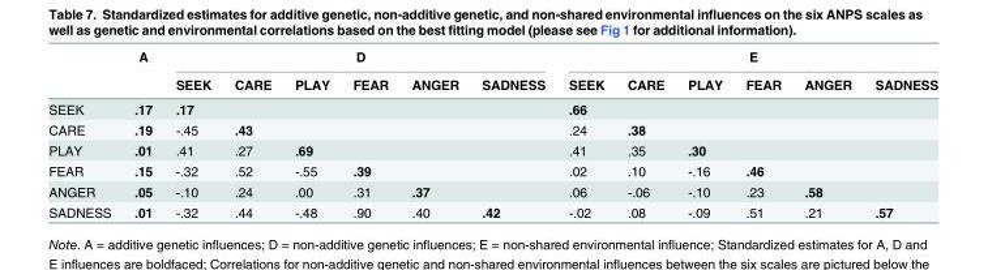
<table><thead><tr><td rowspan="2"></td><td rowspan="2">A</td><td colspan="6">D</td><td colspan="6">E</td></tr><tr><td>SEEK</td><td>CARE</td><td>PLAY</td><td>FEAR</td><td>ANGER</td><td>SADNESS</td><td>SEEK</td><td>CARE</td><td>PLAY</td><td>FEAR</td><td>ANGER</td><td>SADNESS</td></tr></thead><tbody><tr><td>SEEK</td><td>.17</td><td>.17</td><td></td><td></td><td></td><td></td><td></td><td>.66</td><td></td><td></td><td></td><td></td><td></td></tr><tr><td>CARE</td><td>.19</td><td>-.45</td><td>.43</td><td></td><td></td><td></td><td></td><td>.24</td><td>.38</td><td></td><td></td><td></td><td></td></tr><tr><td>PLAY</td><td>.01</td><td>.41</td><td>.27</td><td>.69</td><td></td><td></td><td></td><td>.41</td><td>.35</td><td>.30</td><td></td><td></td><td></td></tr><tr><td>FEAR</td><td>.15</td><td>-.32</td><td>.52</td><td>-.55</td><td>.39</td><td></td><td></td><td>.02</td><td>.10</td><td>-.16</td><td>.46</td><td></td><td></td></tr><tr><td>ANGER</td><td>.05</td><td>-.10</td><td>.24</td><td>.00</td><td>.31</td><td>.37</td><td></td><td>.06</td><td>-.06</td><td>-.10</td><td>.23</td><td>.58</td><td></td></tr><tr><td>SADNESS</td><td>.01</td><td>-.32</td><td>.44</td><td>-.48</td><td>.90</td><td>.40</td><td>.42</td><td>-.02</td><td>.08</td><td>-.09</td><td>.51</td><td>.21</td><td>.57</td></tr></tbody></table>